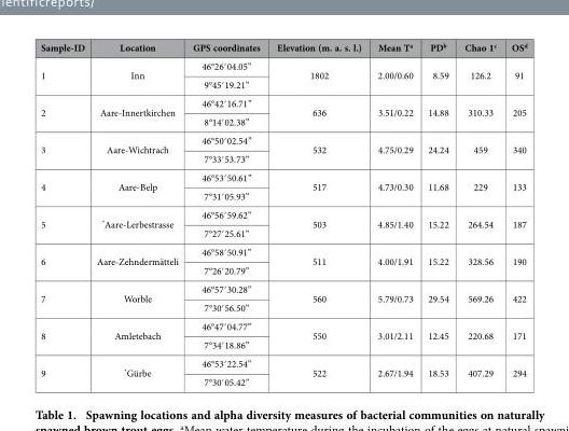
<table><thead><tr><td>Sample-ID</td><td>Location</td><td>GPS coordinates</td><td>Elevation (m. a. s. l.)</td><td>Mean T<sup>a</sup></td><td>PD<sup>b</sup></td><td>Chao 1<sup>c</sup></td><td>OS<sup>d</sup></td></tr></thead><tbody><tr><td rowspan="2">1</td><td rowspan="2">Inn</td><td>46°26′ 04.05”</td><td rowspan="2">1802</td><td rowspan="2">2.00/0.60</td><td rowspan="2">8.59</td><td rowspan="2">126.2</td><td rowspan="2">91</td></tr><tr><td>9°45′ 19.21”</td></tr><tr><td rowspan="2">2</td><td rowspan="2">Aare-Innertkirchen</td><td>46°42′ 16.71”</td><td rowspan="2">636</td><td rowspan="2">3.51/0.22</td><td rowspan="2">14.88</td><td rowspan="2">310.33</td><td rowspan="2">205</td></tr><tr><td>8°14′ 02.38”</td></tr><tr><td rowspan="2">3</td><td rowspan="2">Aare-Wichtrach</td><td>46°50′ 02.54”</td><td rowspan="2">532</td><td rowspan="2">4.75/0.29</td><td rowspan="2">24.24</td><td rowspan="2">459</td><td rowspan="2">340</td></tr><tr><td>7°33′ 53.73”</td></tr><tr><td rowspan="2">4</td><td rowspan="2">Aare-Belp</td><td>46°53′ 50.61”</td><td rowspan="2">517</td><td rowspan="2">4.73/0.30</td><td rowspan="2">11.68</td><td rowspan="2">229</td><td rowspan="2">133</td></tr><tr><td>7°31′ 05.93”</td></tr><tr><td rowspan="2">5</td><td rowspan="2">*Aare-Lerbestrasse</td><td>46°56′ 59.62”</td><td rowspan="2">503</td><td rowspan="2">4.85/1.40</td><td rowspan="2">15.22</td><td rowspan="2">264.54</td><td rowspan="2">187</td></tr><tr><td>7°27′ 25.61”</td></tr><tr><td rowspan="2">6</td><td rowspan="2">Aare-Zehndermätteli</td><td>46°58′ 50.91”</td><td rowspan="2">511</td><td rowspan="2">4.00/1.91</td><td rowspan="2">15.22</td><td rowspan="2">328.56</td><td rowspan="2">190</td></tr><tr><td>7°26′ 20.79”</td></tr><tr><td rowspan="2">7</td><td rowspan="2">Worble</td><td>46°57′ 30.28”</td><td rowspan="2">560</td><td rowspan="2">5.79/0.73</td><td rowspan="2">29.54</td><td rowspan="2">569.26</td><td rowspan="2">422</td></tr><tr><td>7°30′ 56.50”</td></tr><tr><td rowspan="2">8</td><td rowspan="2">Amletebach</td><td>46°47′ 04.77”</td><td rowspan="2">550</td><td rowspan="2">3.01/2.11</td><td rowspan="2">12.45</td><td rowspan="2">220.68</td><td rowspan="2">171</td></tr><tr><td>7°34′ 18.86”</td></tr><tr><td rowspan="2">9</td><td rowspan="2">*Gürbe</td><td>46°53′ 22.54”</td><td rowspan="2">522</td><td rowspan="2">2.67/1.94</td><td rowspan="2">18.53</td><td rowspan="2">407.29</td><td rowspan="2">294</td></tr><tr><td>7°30′ 05.42”</td></tr></tbody></table>